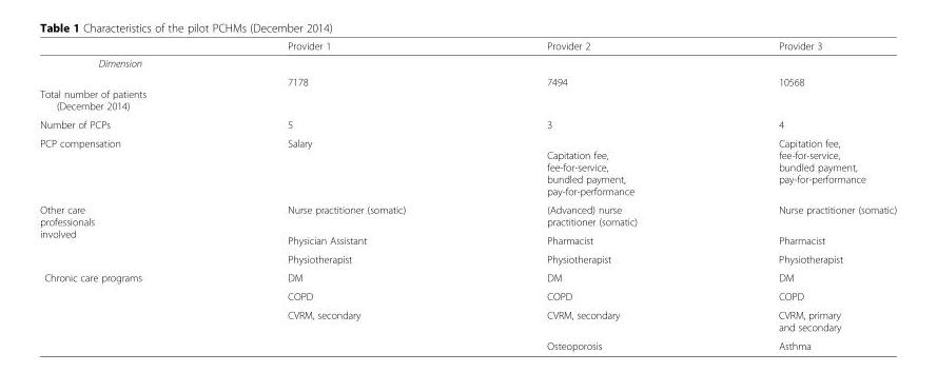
<table><thead><tr><td></td><td>Provider 1</td><td>Provider 2</td><td>Provider 3</td></tr></thead><tbody><tr><td colspan="4">Dimension</td></tr><tr><td>Total number of patients (December 2014)</td><td>7178</td><td>7494</td><td>10568</td></tr><tr><td>Number of PCPs</td><td>5</td><td>3</td><td>4</td></tr><tr><td>PCP compensation</td><td>Salary</td><td>Capitation fee, fee-for-service, bundled payment, pay-for-performance</td><td>Capitation fee, fee-for-service, bundled payment, pay-for-performance</td></tr><tr><td rowspan="3">Other care professionals involved</td><td>Nurse practitioner (somatic)</td><td>(Advanced) nurse practitioner (somatic)</td><td>Nurse practitioner (somatic)</td></tr><tr><td>Physician Assistant</td><td>Pharmacist</td><td>Pharmacist</td></tr><tr><td>Physiotherapist</td><td>Physiotherapist</td><td>Physiotherapist</td></tr><tr><td rowspan="4">Chronic care programs</td><td>DM</td><td>DM</td><td>DM</td></tr><tr><td>COPD</td><td>COPD</td><td>COPD</td></tr><tr><td>CVRM, secondary</td><td>CVRM, secondary</td><td>CVRM, primary and secondary</td></tr><tr><td></td><td>Osteoporosis</td><td>Asthma</td></tr></tbody></table>